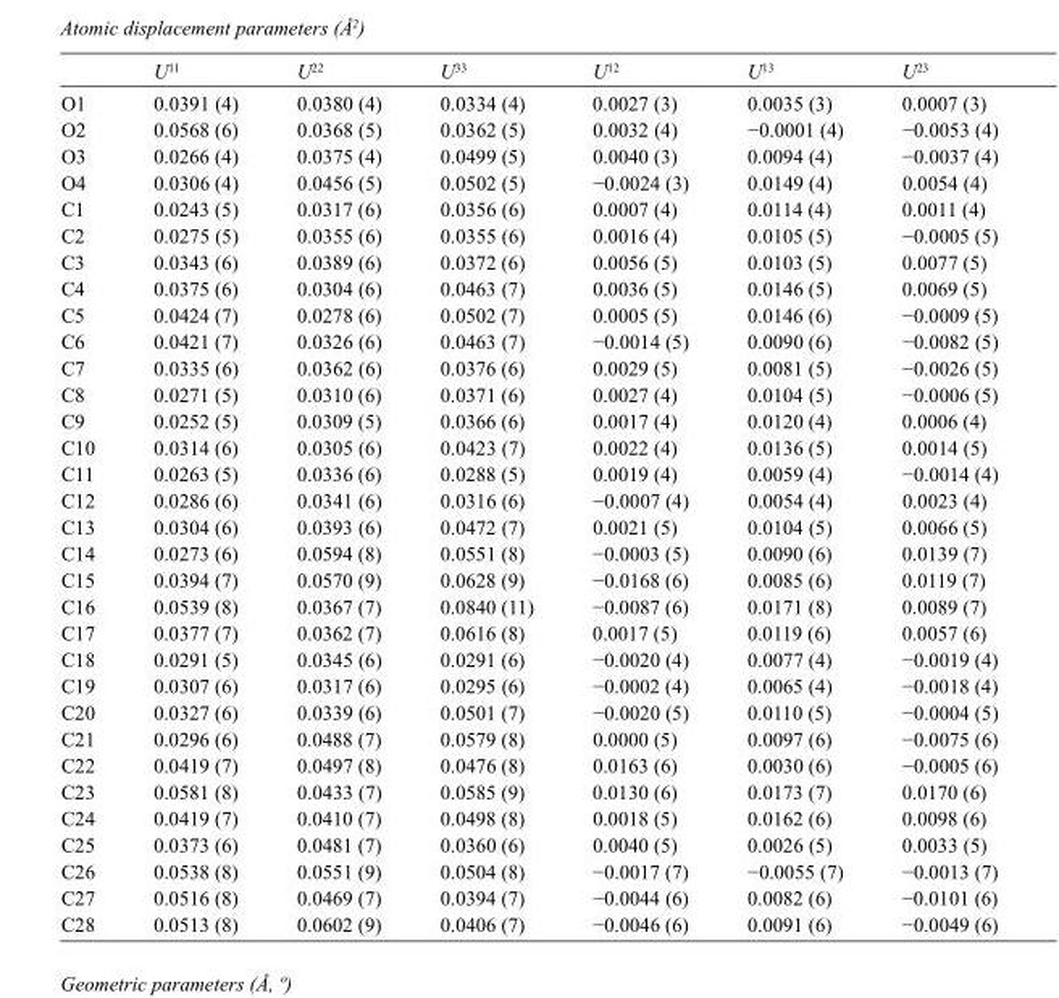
<table><thead><tr><td></td><td>U<sup>11</sup></td><td>U<sup>22</sup></td><td>U<sup>33</sup></td><td>U<sup>12</sup></td><td>U<sup>13</sup></td><td>U<sup>23</sup></td></tr></thead><tbody><tr><td>O1</td><td>0.0391 (4)</td><td>0.0380 (4)</td><td>0.0334 (4)</td><td>0.0027 (3)</td><td>0.0035 (3)</td><td>0.0007 (3)</td></tr><tr><td>O2</td><td>0.0568 (6)</td><td>0.0368 (5)</td><td>0.0362 (5)</td><td>0.0032 (4)</td><td>−0.0001 (4)</td><td>−0.0053 (4)</td></tr><tr><td>O3</td><td>0.0266 (4)</td><td>0.0375 (4)</td><td>0.0499 (5)</td><td>0.0040 (3)</td><td>0.0094 (4)</td><td>−0.0037 (4)</td></tr><tr><td>O4</td><td>0.0306 (4)</td><td>0.0456 (5)</td><td>0.0502 (5)</td><td>−0.0024 (3)</td><td>0.0149 (4)</td><td>0.0054 (4)</td></tr><tr><td>C1</td><td>0.0243 (5)</td><td>0.0317 (6)</td><td>0.0356 (6)</td><td>0.0007 (4)</td><td>0.0114 (4)</td><td>0.0011 (4)</td></tr><tr><td>C2</td><td>0.0275 (5)</td><td>0.0355 (6)</td><td>0.0355 (6)</td><td>0.0016 (4)</td><td>0.0105 (5)</td><td>−0.0005 (5)</td></tr><tr><td>C3</td><td>0.0343 (6)</td><td>0.0389 (6)</td><td>0.0372 (6)</td><td>0.0056 (5)</td><td>0.0103 (5)</td><td>0.0077 (5)</td></tr><tr><td>C4</td><td>0.0375 (6)</td><td>0.0304 (6)</td><td>0.0463 (7)</td><td>0.0036 (5)</td><td>0.0146 (5)</td><td>0.0069 (5)</td></tr><tr><td>C5</td><td>0.0424 (7)</td><td>0.0278 (6)</td><td>0.0502 (7)</td><td>0.0005 (5)</td><td>0.0146 (6)</td><td>−0.0009 (5)</td></tr><tr><td>C6</td><td>0.0421 (7)</td><td>0.0326 (6)</td><td>0.0463 (7)</td><td>−0.0014 (5)</td><td>0.0090 (6)</td><td>−0.0082 (5)</td></tr><tr><td>C7</td><td>0.0335 (6)</td><td>0.0362 (6)</td><td>0.0376 (6)</td><td>0.0029 (5)</td><td>0.0081 (5)</td><td>−0.0026 (5)</td></tr><tr><td>C8</td><td>0.0271 (5)</td><td>0.0310 (6)</td><td>0.0371 (6)</td><td>0.0027 (4)</td><td>0.0104 (5)</td><td>−0.0006 (5)</td></tr><tr><td>C9</td><td>0.0252 (5)</td><td>0.0309 (5)</td><td>0.0366 (6)</td><td>0.0017 (4)</td><td>0.0120 (4)</td><td>0.0006 (4)</td></tr><tr><td>C10</td><td>0.0314 (6)</td><td>0.0305 (6)</td><td>0.0423 (7)</td><td>0.0022 (4)</td><td>0.0136 (5)</td><td>0.0014 (5)</td></tr><tr><td>C11</td><td>0.0263 (5)</td><td>0.0336 (6)</td><td>0.0288 (5)</td><td>0.0019 (4)</td><td>0.0059 (4)</td><td>−0.0014 (4)</td></tr><tr><td>C12</td><td>0.0286 (6)</td><td>0.0341 (6)</td><td>0.0316 (6)</td><td>−0.0007 (4)</td><td>0.0054 (4)</td><td>0.0023 (4)</td></tr><tr><td>C13</td><td>0.0304 (6)</td><td>0.0393 (6)</td><td>0.0472 (7)</td><td>0.0021 (5)</td><td>0.0104 (5)</td><td>0.0066 (5)</td></tr><tr><td>C14</td><td>0.0273 (6)</td><td>0.0594 (8)</td><td>0.0551 (8)</td><td>−0.0003 (5)</td><td>0.0090 (6)</td><td>0.0139 (7)</td></tr><tr><td>C15</td><td>0.0394 (7)</td><td>0.0570 (9)</td><td>0.0628 (9)</td><td>−0.0168 (6)</td><td>0.0085 (6)</td><td>0.0119 (7)</td></tr><tr><td>C16</td><td>0.0539 (8)</td><td>0.0367 (7)</td><td>0.0840 (11)</td><td>−0.0087 (6)</td><td>0.0171 (8)</td><td>0.0089 (7)</td></tr><tr><td>C17</td><td>0.0377 (7)</td><td>0.0362 (7)</td><td>0.0616 (8)</td><td>0.0017 (5)</td><td>0.0119 (6)</td><td>0.0057 (6)</td></tr><tr><td>C18</td><td>0.0291 (5)</td><td>0.0345 (6)</td><td>0.0291 (6)</td><td>−0.0020 (4)</td><td>0.0077 (4)</td><td>−0.0019 (4)</td></tr><tr><td>C19</td><td>0.0307 (6)</td><td>0.0317 (6)</td><td>0.0295 (6)</td><td>−0.0002 (4)</td><td>0.0065 (4)</td><td>−0.0018 (4)</td></tr><tr><td>C20</td><td>0.0327 (6)</td><td>0.0339 (6)</td><td>0.0501 (7)</td><td>−0.0020 (5)</td><td>0.0110 (5)</td><td>−0.0004 (5)</td></tr><tr><td>C21</td><td>0.0296 (6)</td><td>0.0488 (7)</td><td>0.0579 (8)</td><td>0.0000 (5)</td><td>0.0097 (6)</td><td>−0.0075 (6)</td></tr><tr><td>C22</td><td>0.0419 (7)</td><td>0.0497 (8)</td><td>0.0476 (8)</td><td>0.0163 (6)</td><td>0.0030 (6)</td><td>−0.0005 (6)</td></tr><tr><td>C23</td><td>0.0581 (8)</td><td>0.0433 (7)</td><td>0.0585 (9)</td><td>0.0130 (6)</td><td>0.0173 (7)</td><td>0.0170 (6)</td></tr><tr><td>C24</td><td>0.0419 (7)</td><td>0.0410 (7)</td><td>0.0498 (8)</td><td>0.0018 (5)</td><td>0.0162 (6)</td><td>0.0098 (6)</td></tr><tr><td>C25</td><td>0.0373 (6)</td><td>0.0481 (7)</td><td>0.0360 (6)</td><td>0.0040 (5)</td><td>0.0026 (5)</td><td>0.0033 (5)</td></tr><tr><td>C26</td><td>0.0538 (8)</td><td>0.0551 (9)</td><td>0.0504 (8)</td><td>−0.0017 (7)</td><td>−0.0055 (7)</td><td>−0.0013 (7)</td></tr><tr><td>C27</td><td>0.0516 (8)</td><td>0.0469 (7)</td><td>0.0394 (7)</td><td>−0.0044 (6)</td><td>0.0082 (6)</td><td>−0.0101 (6)</td></tr><tr><td>C28</td><td>0.0513 (8)</td><td>0.0602 (9)</td><td>0.0406 (7)</td><td>−0.0046 (6)</td><td>0.0091 (6)</td><td>−0.0049 (6)</td></tr></tbody></table>